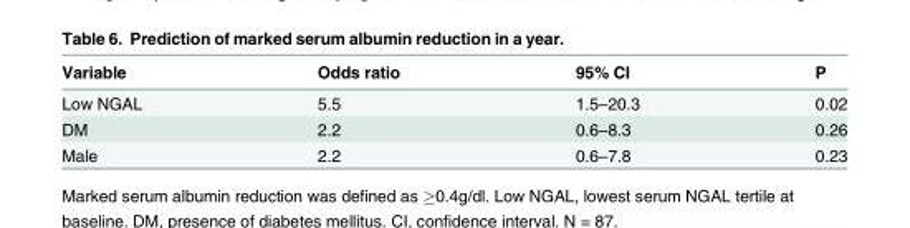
<table><thead><tr><td>Variable</td><td>Odds ratio</td><td>95% CI</td><td>P</td></tr></thead><tbody><tr><td>Low NGAL</td><td>5.5</td><td>1.5–20.3</td><td>0.02</td></tr><tr><td>DM</td><td>2.2</td><td>0.6–8.3</td><td>0.26</td></tr><tr><td>Male</td><td>2.2</td><td>0.6–7.8</td><td>0.23</td></tr></tbody></table>